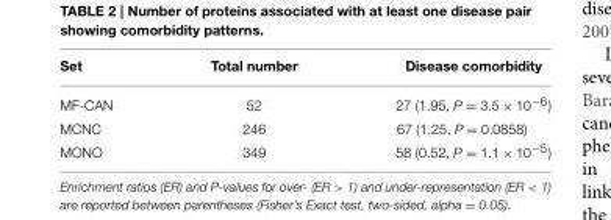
<table><thead><tr><td>Set</td><td>Total number</td><td>Disease comorbidity</td></tr></thead><tbody><tr><td>MF-CAN</td><td>52</td><td>27 (1.95, P = 3.5 × 10<sup>−6</sup>)</td></tr><tr><td>MCNC</td><td>246</td><td>67 (1.25, P = 0.0858)</td></tr><tr><td>MONO</td><td>349</td><td>58 (0.52, P = 1.1 × 10<sup>−5</sup>)</td></tr></tbody></table>